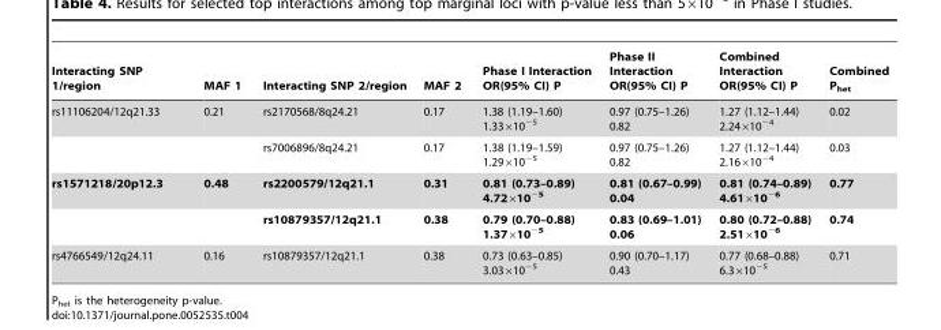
<table><thead><tr><td>Interacting SNP 1/region</td><td>MAF 1</td><td>Interacting SNP 2/region</td><td>MAF 2</td><td>Phase I Interaction OR(95% CI) P</td><td>Phase II Interaction OR(95% CI) P</td><td>Combined Interaction OR(95% CI) P</td><td>Combined P<sub>het</sub></td></tr></thead><tbody><tr><td rowspan="2">rs11106204/12q21.33</td><td>0.21</td><td>rs2170568/8q24.21</td><td>0.17</td><td>1.38 (1.19–1.60) 1.33×10<sup>−5</sup></td><td>0.97 (0.75–1.26) 0.82</td><td>1.27 (1.12–1.44) 2.24×10<sup>−4</sup></td><td>0.02</td></tr><tr><td></td><td>rs7006896/8q24.21</td><td>0.17</td><td>1.38 (1.19–1.59) 1.29×10<sup>−5</sup></td><td>0.97 (0.75–1.26) 0.82</td><td>1.27 (1.12–1.44) 2.16×10<sup>−4</sup></td><td>0.03</td></tr><tr><td rowspan="2">rs1571218/20p12.3</td><td>0.48</td><td>rs2200579/12q21.1</td><td>0.31</td><td>0.81 (0.73–0.89) 4.72×10<sup>−5</sup></td><td>0.81 (0.67–0.99) 0.04</td><td>0.81 (0.74–0.89) 4.61×10<sup>−6</sup></td><td>0.77</td></tr><tr><td></td><td>rs10879357/12q21.1</td><td>0.38</td><td>0.79 (0.70–0.88) 1.37×10<sup>−5</sup></td><td>0.83 (0.69–1.01) 0.06</td><td>0.80 (0.72–0.88) 2.51×10<sup>−6</sup></td><td>0.74</td></tr><tr><td>rs4766549/12q24.11</td><td>0.16</td><td>rs10879357/12q21.1</td><td>0.38</td><td>0.73 (0.63–0.85) 3.03×10<sup>−5</sup></td><td>0.90 (0.70–1.17) 0.43</td><td>0.77 (0.68–0.88) 6.3×10<sup>−5</sup></td><td>0.71</td></tr></tbody></table>